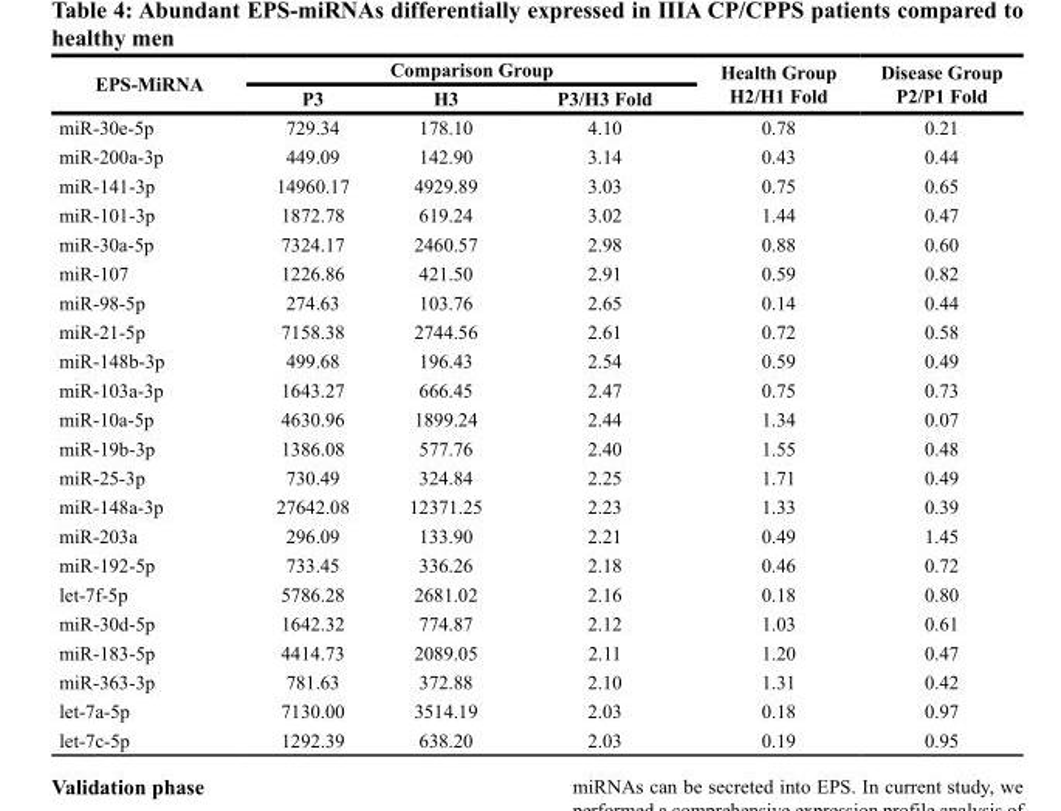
<table><thead><tr><td rowspan="2">EPS-MiRNA</td><td colspan="3">Comparison Group</td><td rowspan="2">Health Group H2/H1 Fold</td><td rowspan="2">Disease Group P2/P1 Fold</td></tr><tr><td>P3</td><td>H3</td><td>P3/H3 Fold</td></tr></thead><tbody><tr><td>miR-30e-5p</td><td>729.34</td><td>178.10</td><td>4.10</td><td>0.78</td><td>0.21</td></tr><tr><td>miR-200a-3p</td><td>449.09</td><td>142.90</td><td>3.14</td><td>0.43</td><td>0.44</td></tr><tr><td>miR-141-3p</td><td>14960.17</td><td>4929.89</td><td>3.03</td><td>0.75</td><td>0.65</td></tr><tr><td>miR-101-3p</td><td>1872.78</td><td>619.24</td><td>3.02</td><td>1.44</td><td>0.47</td></tr><tr><td>miR-30a-5p</td><td>7324.17</td><td>2460.57</td><td>2.98</td><td>0.88</td><td>0.60</td></tr><tr><td>miR-107</td><td>1226.86</td><td>421.50</td><td>2.91</td><td>0.59</td><td>0.82</td></tr><tr><td>miR-98-5p</td><td>274.63</td><td>103.76</td><td>2.65</td><td>0.14</td><td>0.44</td></tr><tr><td>miR-21-5p</td><td>7158.38</td><td>2744.56</td><td>2.61</td><td>0.72</td><td>0.58</td></tr><tr><td>miR-148b-3p</td><td>499.68</td><td>196.43</td><td>2.54</td><td>0.59</td><td>0.49</td></tr><tr><td>miR-103a-3p</td><td>1643.27</td><td>666.45</td><td>2.47</td><td>0.75</td><td>0.73</td></tr><tr><td>miR-10a-5p</td><td>4630.96</td><td>1899.24</td><td>2.44</td><td>1.34</td><td>0.07</td></tr><tr><td>miR-19b-3p</td><td>1386.08</td><td>577.76</td><td>2.40</td><td>1.55</td><td>0.48</td></tr><tr><td>miR-25-3p</td><td>730.49</td><td>324.84</td><td>2.25</td><td>1.71</td><td>0.49</td></tr><tr><td>miR-148a-3p</td><td>27642.08</td><td>12371.25</td><td>2.23</td><td>1.33</td><td>0.39</td></tr><tr><td>miR-203a</td><td>296.09</td><td>133.90</td><td>2.21</td><td>0.49</td><td>1.45</td></tr><tr><td>miR-192-5p</td><td>733.45</td><td>336.26</td><td>2.18</td><td>0.46</td><td>0.72</td></tr><tr><td>let-7f-5p</td><td>5786.28</td><td>2681.02</td><td>2.16</td><td>0.18</td><td>0.80</td></tr><tr><td>miR-30d-5p</td><td>1642.32</td><td>774.87</td><td>2.12</td><td>1.03</td><td>0.61</td></tr><tr><td>miR-183-5p</td><td>4414.73</td><td>2089.05</td><td>2.11</td><td>1.20</td><td>0.47</td></tr><tr><td>miR-363-3p</td><td>781.63</td><td>372.88</td><td>2.10</td><td>1.31</td><td>0.42</td></tr><tr><td>let-7a-5p</td><td>7130.00</td><td>3514.19</td><td>2.03</td><td>0.18</td><td>0.97</td></tr><tr><td>let-7c-5p</td><td>1292.39</td><td>638.20</td><td>2.03</td><td>0.19</td><td>0.95</td></tr></tbody></table>